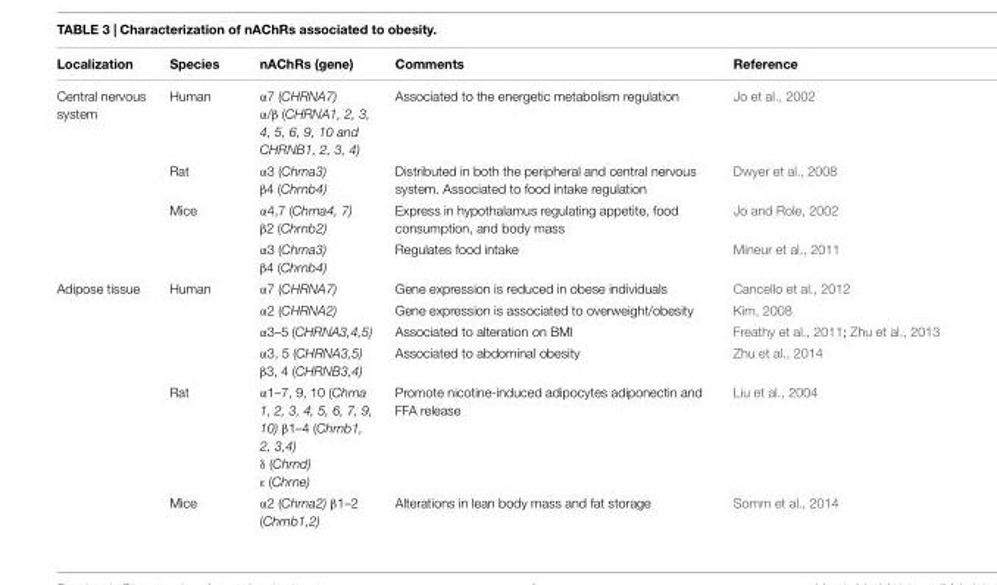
<table><thead><tr><td>Localization</td><td>Species</td><td>nAChRs (gene)</td><td>Comments</td><td>Reference</td></tr></thead><tbody><tr><td rowspan="4">Central nervous system</td><td>Human</td><td>α7 (CHRNA7) α/β (CHRNA1, 2, 3, 4, 5, 6, 9, 10 and CHRNB1, 2, 3, 4)</td><td>Associated to the energetic metabolism regulation</td><td>Jo et al., 2002</td></tr><tr><td>Rat</td><td>α3 (Chrna3) β4 (Chrnb4)</td><td>Distributed in both the peripheral and central nervous system. Associated to food intake regulation</td><td>Dwyer et al., 2008</td></tr><tr><td>Mice</td><td>α4,7 (Chrna4, 7) β2 (Chrnb2)</td><td>Express in hypothalamus regulating appetite, food consumption, and body mass</td><td>Jo and Role, 2002</td></tr><tr><td></td><td>α3 (Chrna3) β4 (Chrnb4)</td><td>Regulates food intake</td><td>Mineur et al., 2011</td></tr><tr><td rowspan="6">Adipose tissue</td><td>Human</td><td>α7 (CHRNA7)</td><td>Gene expression is reduced in obese individuals</td><td>Cancello et al., 2012</td></tr><tr><td></td><td>α2 (CHRNA2)</td><td>Gene expression is associated to overweight/obesity</td><td>Kim, 2008</td></tr><tr><td></td><td>α3–5 (CHRNA3,4,5)</td><td>Associated to alteration on BMI</td><td>Freathy et al., 2011; Zhu et al., 2013</td></tr><tr><td></td><td>α3, 5 (CHRNA3,5) β3, 4 (CHRNB3,4)</td><td>Associated to abdominal obesity</td><td>Zhu et al., 2014</td></tr><tr><td>Rat</td><td>α1–7, 9, 10 (Chrna 1, 2, 3, 4, 5, 6, 7, 9, 10) β1–4 (Chrnb1, 2, 3,4) δ (Chrnd) ε (Chrne)</td><td>Promote nicotine-induced adipocytes adiponectin and FFA release</td><td>Liu et al., 2004</td></tr><tr><td>Mice</td><td>α2 (Chrna2) β1–2 (Chrnb1,2)</td><td>Alterations in lean body mass and fat storage</td><td>Somm et al., 2014</td></tr></tbody></table>